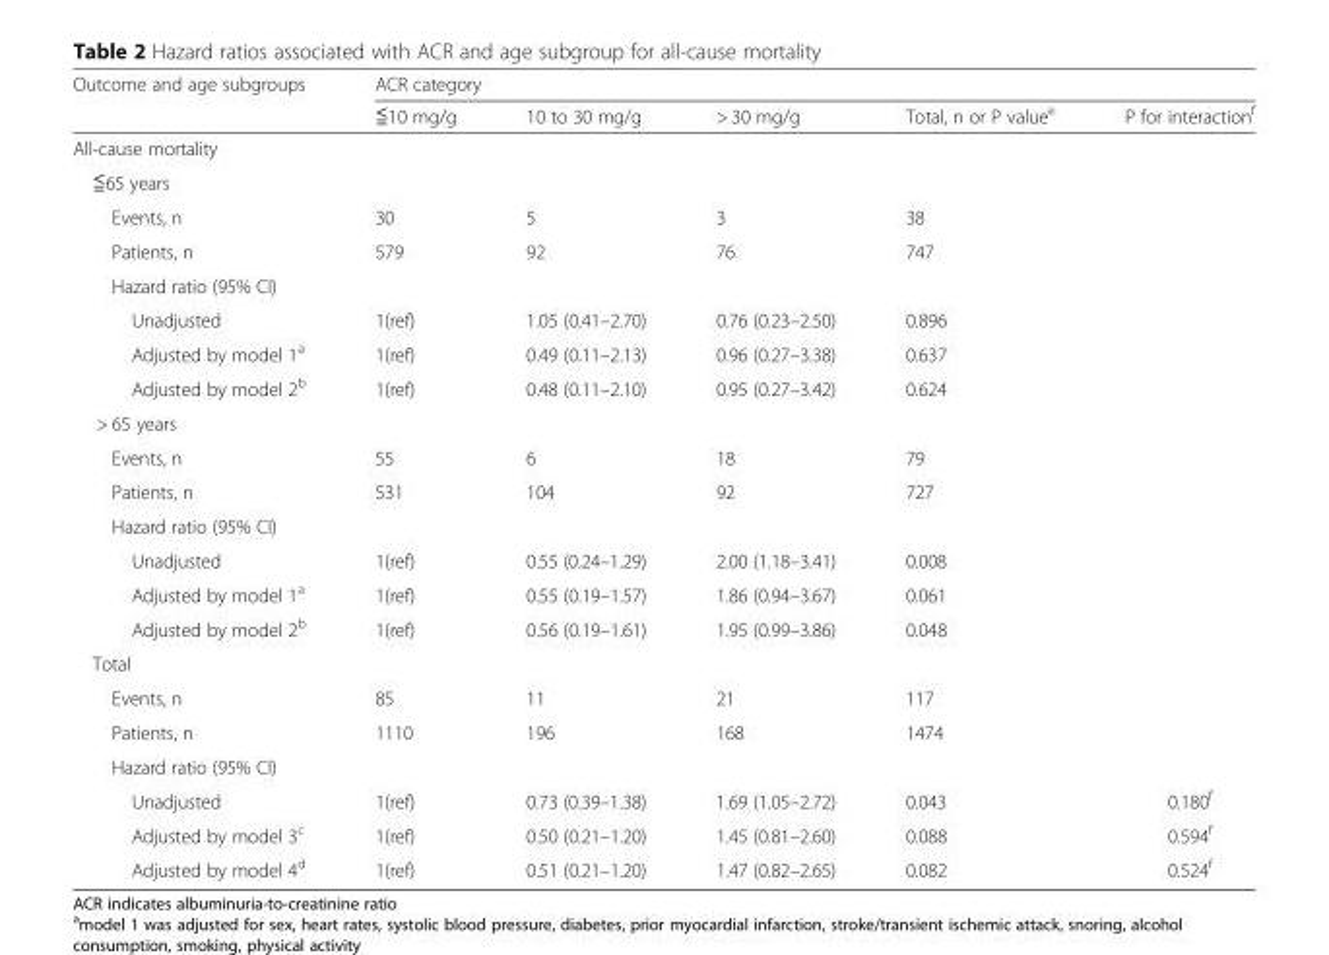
<table><thead><tr><td rowspan="2">Outcome and age subgroups</td><td colspan="5">ACR category</td></tr><tr><td>≦10 mg/g</td><td>10 to 30 mg/g</td><td>&gt; 30 mg/g</td><td>Total, n or P value<sup>e</sup></td><td>P for interaction<sup>f</sup></td></tr></thead><tbody><tr><td colspan="6">All-cause mortality</td></tr><tr><td colspan="6">≦65 years</td></tr><tr><td>Events, n</td><td>30</td><td>5</td><td>3</td><td>38</td><td></td></tr><tr><td>Patients, n</td><td>579</td><td>92</td><td>76</td><td>747</td><td></td></tr><tr><td colspan="6">Hazard ratio (95% CI)</td></tr><tr><td>Unadjusted</td><td>1(ref)</td><td>1.05 (0.41–2.70)</td><td>0.76 (0.23–2.50)</td><td>0.896</td><td></td></tr><tr><td>Adjusted by model 1<sup>a</sup></td><td>1(ref)</td><td>0.49 (0.11–2.13)</td><td>0.96 (0.27–3.38)</td><td>0.637</td><td></td></tr><tr><td>Adjusted by model 2<sup>b</sup></td><td>1(ref)</td><td>0.48 (0.11–2.10)</td><td>0.95 (0.27–3.42)</td><td>0.624</td><td></td></tr><tr><td colspan="6">&gt; 65 years</td></tr><tr><td>Events, n</td><td>55</td><td>6</td><td>18</td><td>79</td><td></td></tr><tr><td>Patients, n</td><td>531</td><td>104</td><td>92</td><td>727</td><td></td></tr><tr><td colspan="6">Hazard ratio (95% CI)</td></tr><tr><td>Unadjusted</td><td>1(ref)</td><td>0.55 (0.24–1.29)</td><td>2.00 (1.18–3.41)</td><td>0.008</td><td></td></tr><tr><td>Adjusted by model 1<sup>a</sup></td><td>1(ref)</td><td>0.55 (0.19–1.57)</td><td>1.86 (0.94–3.67)</td><td>0.061</td><td></td></tr><tr><td>Adjusted by model 2<sup>b</sup></td><td>1(ref)</td><td>0.56 (0.19–1.61)</td><td>1.95 (0.99–3.86)</td><td>0.048</td><td></td></tr><tr><td colspan="6">Total</td></tr><tr><td>Events, n</td><td>85</td><td>11</td><td>21</td><td>117</td><td></td></tr><tr><td>Patients, n</td><td>1110</td><td>196</td><td>168</td><td>1474</td><td></td></tr><tr><td colspan="6">Hazard ratio (95% CI)</td></tr><tr><td>Unadjusted</td><td>1(ref)</td><td>0.73 (0.39–1.38)</td><td>1.69 (1.05–2.72)</td><td>0.043</td><td>0.180<sup>f</sup></td></tr><tr><td>Adjusted by model 3<sup>c</sup></td><td>1(ref)</td><td>0.50 (0.21–1.20)</td><td>1.45 (0.81–2.60)</td><td>0.088</td><td>0.594<sup>f</sup></td></tr><tr><td>Adjusted by model 4<sup>d</sup></td><td>1(ref)</td><td>0.51 (0.21–1.20)</td><td>1.47 (0.82–2.65)</td><td>0.082</td><td>0.524<sup>f</sup></td></tr></tbody></table>